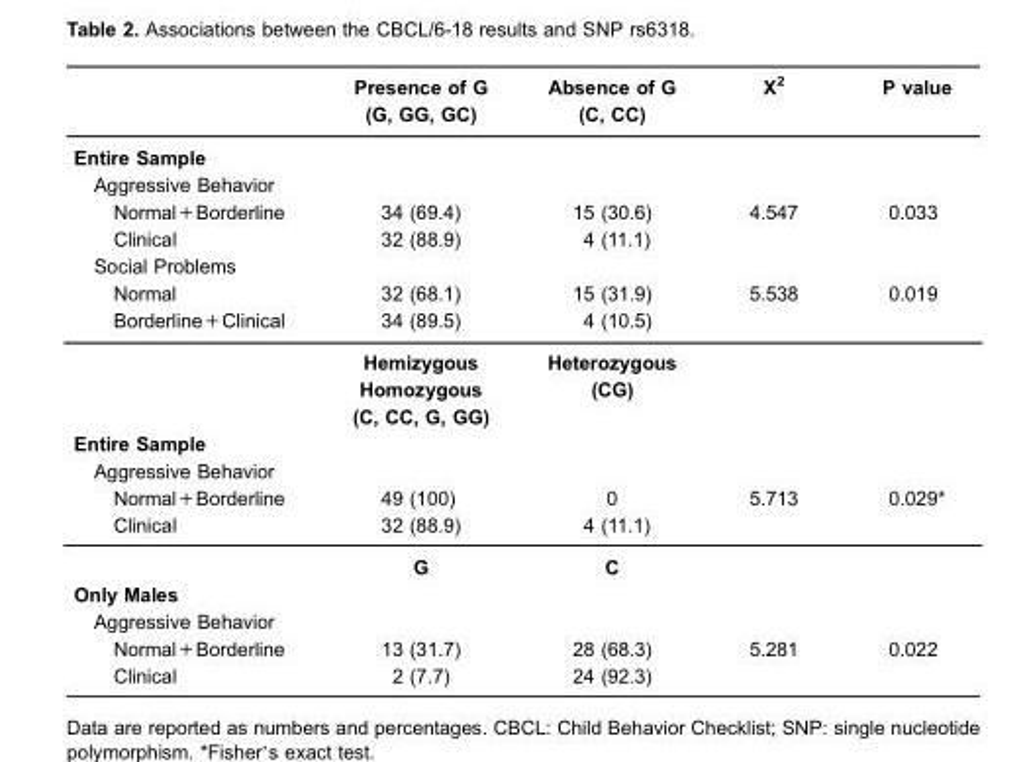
<table><thead><tr><td></td><td>Presence of G (G, GG, GC)</td><td>Absence of G (C, CC)</td><td>X<sup>2</sup></td><td>P value</td></tr></thead><tbody><tr><td colspan="5">Entire Sample</td></tr><tr><td colspan="5">Aggressive Behavior</td></tr><tr><td>Normal+Borderline</td><td>34 (69.4)</td><td>15 (30.6)</td><td>4.547</td><td>0.033</td></tr><tr><td>Clinical</td><td>32 (88.9)</td><td>4 (11.1)</td><td></td><td></td></tr><tr><td colspan="5">Social Problems</td></tr><tr><td>Normal</td><td>32 (68.1)</td><td>15 (31.9)</td><td>5.538</td><td>0.019</td></tr><tr><td rowspan="2">Borderline+Clinical</td><td>34 (89.5)</td><td>4 (10.5)</td><td></td><td></td></tr><tr><td>Hemizygous Homozygous (C, CC, G, GG)</td><td>Heterozygous (CG)</td><td></td><td></td></tr><tr><td colspan="5">Entire Sample</td></tr><tr><td colspan="5">Aggressive Behavior</td></tr><tr><td>Normal+Borderline</td><td>49 (100)</td><td>0</td><td>5.713</td><td>0.029*</td></tr><tr><td rowspan="2">Clinical</td><td>32 (88.9)</td><td>4 (11.1)</td><td></td><td></td></tr><tr><td>G</td><td>C</td><td></td><td></td></tr><tr><td colspan="5">Only Males</td></tr><tr><td colspan="5">Aggressive Behavior</td></tr><tr><td>Normal+Borderline</td><td>13 (31.7)</td><td>28 (68.3)</td><td>5.281</td><td>0.022</td></tr><tr><td>Clinical</td><td>2 (7.7)</td><td>24 (92.3)</td><td></td><td></td></tr></tbody></table>